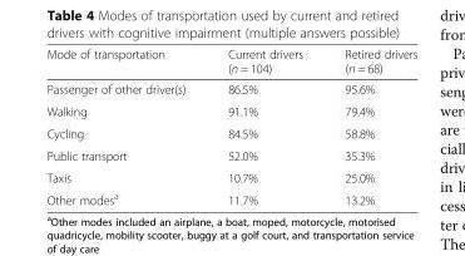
<table><thead><tr><td>Mode of transportation</td><td>Current drivers (n = 104)</td><td>Retired drivers (n = 68)</td></tr></thead><tbody><tr><td>Passenger of other driver(s)</td><td>86.5%</td><td>95.6%</td></tr><tr><td>Walking</td><td>91.1%</td><td>79.4%</td></tr><tr><td>Cycling</td><td>84.5%</td><td>58.8%</td></tr><tr><td>Public transport</td><td>52.0%</td><td>35.3%</td></tr><tr><td>Taxis</td><td>10.7%</td><td>25.0%</td></tr><tr><td>Other modes<sup>a</sup></td><td>11.7%</td><td>13.2%</td></tr></tbody></table>